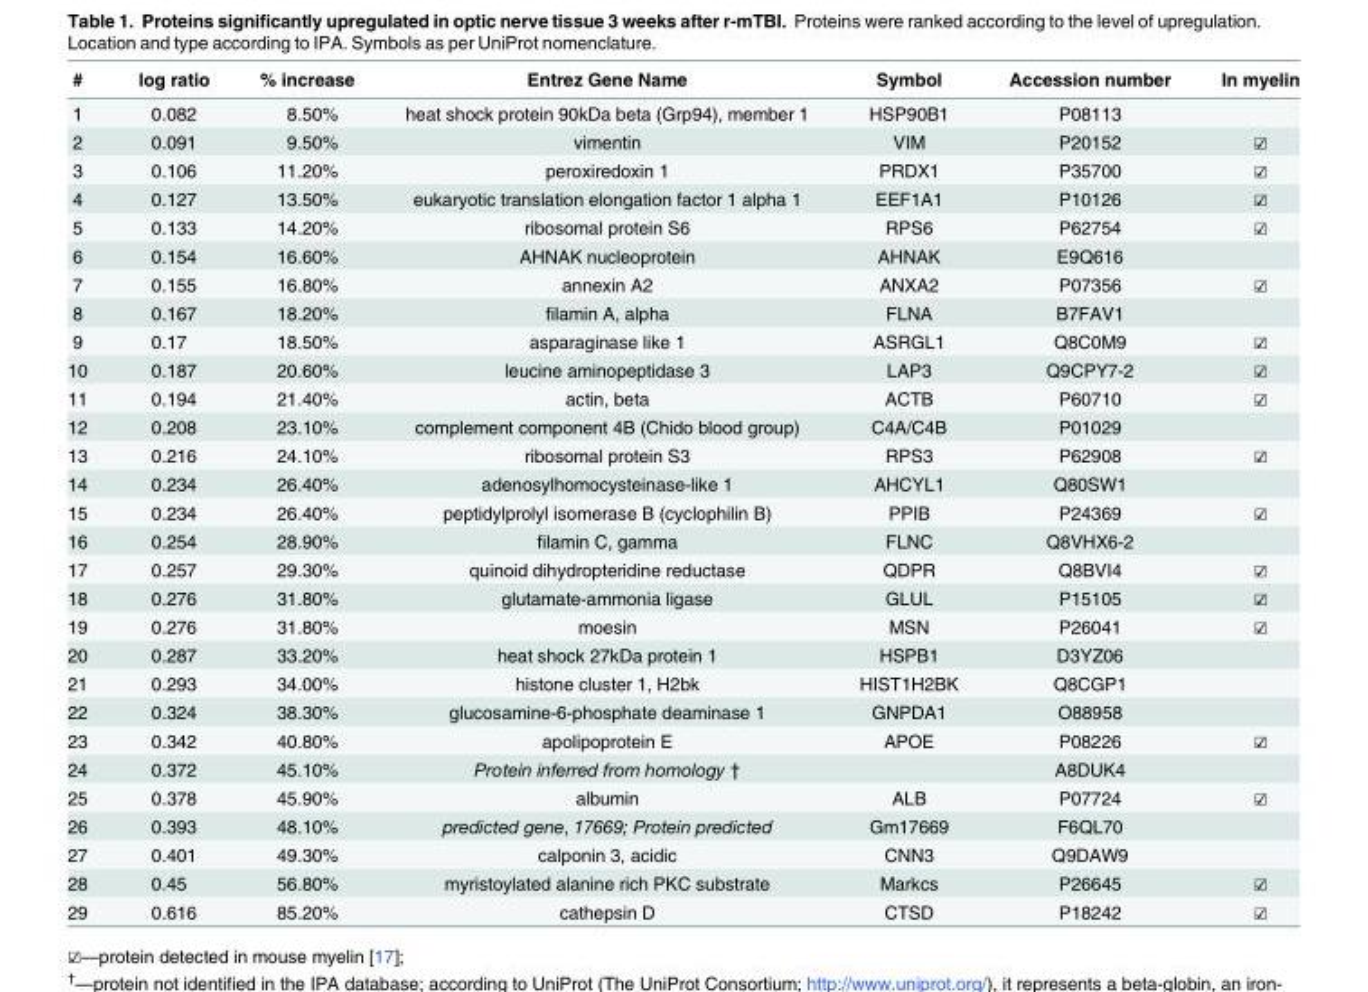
<table><thead><tr><td>#</td><td>log ratio</td><td>% increase</td><td>Entrez Gene Name</td><td>Symbol</td><td>Accession number</td><td>In myelin</td></tr></thead><tbody><tr><td>1</td><td>0.082</td><td>8.50%</td><td>heat shock protein 90kDa beta (Grp94), member 1</td><td>HSP90B1</td><td>P08113</td><td></td></tr><tr><td>2</td><td>0.091</td><td>9.50%</td><td>vimentin</td><td>VIM</td><td>P20152</td><td>☑</td></tr><tr><td>3</td><td>0.106</td><td>11.20%</td><td>peroxiredoxin 1</td><td>PRDX1</td><td>P35700</td><td>☑</td></tr><tr><td>4</td><td>0.127</td><td>13.50%</td><td>eukaryotic translation elongation factor 1 alpha 1</td><td>EEF1A1</td><td>P10126</td><td>☑</td></tr><tr><td>5</td><td>0.133</td><td>14.20%</td><td>ribosomal protein S6</td><td>RPS6</td><td>P62754</td><td>☑</td></tr><tr><td>6</td><td>0.154</td><td>16.60%</td><td>AHNAK nucleoprotein</td><td>AHNAK</td><td>E9Q616</td><td></td></tr><tr><td>7</td><td>0.155</td><td>16.80%</td><td>annexin A2</td><td>ANXA2</td><td>P07356</td><td>☑</td></tr><tr><td>8</td><td>0.167</td><td>18.20%</td><td>filamin A, alpha</td><td>FLNA</td><td>B7FAV1</td><td></td></tr><tr><td>9</td><td>0.17</td><td>18.50%</td><td>asparaginase like 1</td><td>ASRGL1</td><td>Q8C0M9</td><td>☑</td></tr><tr><td>10</td><td>0.187</td><td>20.60%</td><td>leucine aminopeptidase 3</td><td>LAP3</td><td>Q9CPY7-2</td><td>☑</td></tr><tr><td>11</td><td>0.194</td><td>21.40%</td><td>actin, beta</td><td>ACTB</td><td>P60710</td><td>☑</td></tr><tr><td>12</td><td>0.208</td><td>23.10%</td><td>complement component 4B (Chido blood group)</td><td>C4A/C4B</td><td>P01029</td><td></td></tr><tr><td>13</td><td>0.216</td><td>24.10%</td><td>ribosomal protein S3</td><td>RPS3</td><td>P62908</td><td>☑</td></tr><tr><td>14</td><td>0.234</td><td>26.40%</td><td>adenosylhomocysteinase-like 1</td><td>AHCYL1</td><td>Q80SW1</td><td></td></tr><tr><td>15</td><td>0.234</td><td>26.40%</td><td>peptidylprolyl isomerase B (cyclophilin B)</td><td>PPIB</td><td>P24369</td><td>☑</td></tr><tr><td>16</td><td>0.254</td><td>28.90%</td><td>filamin C, gamma</td><td>FLNC</td><td>Q8VHX6-2</td><td></td></tr><tr><td>17</td><td>0.257</td><td>29.30%</td><td>quinoid dihydropteridine reductase</td><td>QDPR</td><td>Q8BVI4</td><td>☑</td></tr><tr><td>18</td><td>0.276</td><td>31.80%</td><td>glutamate-ammonia ligase</td><td>GLUL</td><td>P15105</td><td>☑</td></tr><tr><td>19</td><td>0.276</td><td>31.80%</td><td>moesin</td><td>MSN</td><td>P26041</td><td>☑</td></tr><tr><td>20</td><td>0.287</td><td>33.20%</td><td>heat shock 27kDa protein 1</td><td>HSPB1</td><td>D3YZ06</td><td></td></tr><tr><td>21</td><td>0.293</td><td>34.00%</td><td>histone cluster 1, H2bk</td><td>HIST1H2BK</td><td>Q8CGP1</td><td></td></tr><tr><td>22</td><td>0.324</td><td>38.30%</td><td>glucosamine-6-phosphate deaminase 1</td><td>GNPDA1</td><td>O88958</td><td></td></tr><tr><td>23</td><td>0.342</td><td>40.80%</td><td>apolipoprotein E</td><td>APOE</td><td>P08226</td><td>☑</td></tr><tr><td>24</td><td>0.372</td><td>45.10%</td><td>Protein inferred from homology †</td><td></td><td>A8DUK4</td><td></td></tr><tr><td>25</td><td>0.378</td><td>45.90%</td><td>albumin</td><td>ALB</td><td>P07724</td><td>☑</td></tr><tr><td>26</td><td>0.393</td><td>48.10%</td><td>predicted gene, 17669; Protein predicted</td><td>Gm17669</td><td>F6QL70</td><td></td></tr><tr><td>27</td><td>0.401</td><td>49.30%</td><td>calponin 3, acidic</td><td>CNN3</td><td>Q9DAW9</td><td></td></tr><tr><td>28</td><td>0.45</td><td>56.80%</td><td>myristoylated alanine rich PKC substrate</td><td>Markcs</td><td>P26645</td><td>☑</td></tr><tr><td>29</td><td>0.616</td><td>85.20%</td><td>cathepsin D</td><td>CTSD</td><td>P18242</td><td>☑</td></tr></tbody></table>